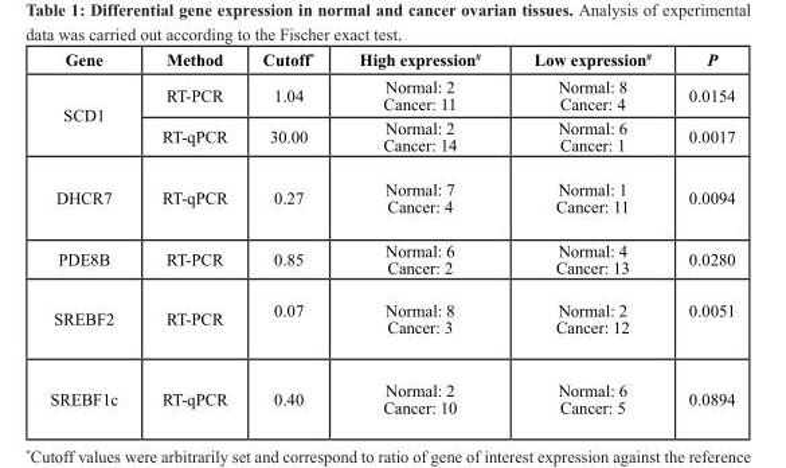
<table><thead><tr><td>Gene</td><td>Method</td><td>Cutoff*</td><td>High expression#</td><td>Low expression#</td><td>P</td></tr></thead><tbody><tr><td rowspan="2">SCD1</td><td>RT-PCR</td><td>1.04</td><td>Normal: 2 Cancer: 11</td><td>Normal: 8 Cancer: 4</td><td>0.0154</td></tr><tr><td>RT-qPCR</td><td>30.00</td><td>Normal: 2 Cancer: 14</td><td>Normal: 6 Cancer: 1</td><td>0.0017</td></tr><tr><td>DHCR7</td><td>RT-qPCR</td><td>0.27</td><td>Normal: 7 Cancer: 4</td><td>Normal: 1 Cancer: 11</td><td>0.0094</td></tr><tr><td>PDE8B</td><td>RT-PCR</td><td>0.85</td><td>Normal: 6 Cancer: 2</td><td>Normal: 4 Cancer: 13</td><td>0.0280</td></tr><tr><td>SREBF2</td><td>RT-PCR</td><td>0.07</td><td>Normal: 8 Cancer: 3</td><td>Normal: 2 Cancer: 12</td><td>0.0051</td></tr><tr><td>SREBF1c</td><td>RT-qPCR</td><td>0.40</td><td>Normal: 2 Cancer: 10</td><td>Normal: 6 Cancer: 5</td><td>0.0894</td></tr></tbody></table>